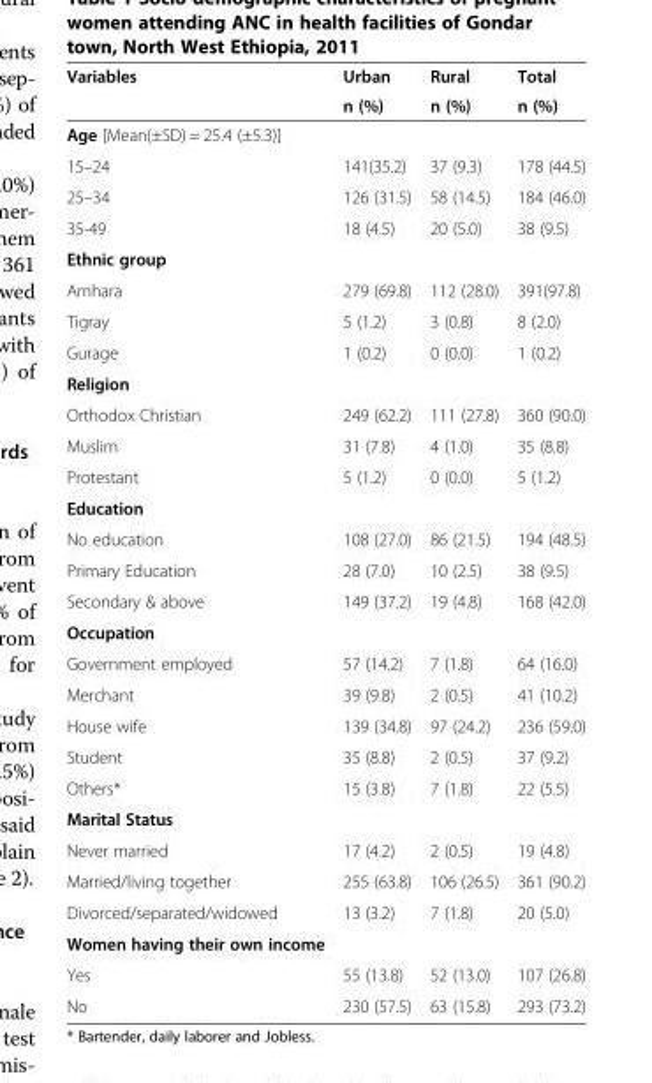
<table><thead><tr><td rowspan="2">Variables</td><td rowspan="2">Urban n (%)</td><td rowspan="2">Rural n (%)</td><td rowspan="2">Total n (%)</td></tr><tr></tr></thead><tbody><tr><td colspan="4">Age [Mean(±SD) = 25.4 (±5.3)]</td></tr><tr><td>15–24</td><td>141(35.2)</td><td>37 (9.3)</td><td>178 (44.5)</td></tr><tr><td>25–34</td><td>126 (31.5)</td><td>58 (14.5)</td><td>184 (46.0)</td></tr><tr><td>35-49</td><td>18 (4.5)</td><td>20 (5.0)</td><td>38 (9.5)</td></tr><tr><td colspan="4">Ethnic group</td></tr><tr><td>Amhara</td><td>279 (69.8)</td><td>112 (28.0)</td><td>391(97.8)</td></tr><tr><td>Tigray</td><td>5 (1.2)</td><td>3 (0.8)</td><td>8 (2.0)</td></tr><tr><td>Gurage</td><td>1 (0.2)</td><td>0 (0.0)</td><td>1 (0.2)</td></tr><tr><td colspan="4">Religion</td></tr><tr><td>Orthodox Christian</td><td>249 (62.2)</td><td>111 (27.8)</td><td>360 (90.0)</td></tr><tr><td>Muslim</td><td>31 (7.8)</td><td>4 (1.0)</td><td>35 (8.8)</td></tr><tr><td>Protestant</td><td>5 (1.2)</td><td>0 (0.0)</td><td>5 (1.2)</td></tr><tr><td colspan="4">Education</td></tr><tr><td>No education</td><td>108 (27.0)</td><td>86 (21.5)</td><td>194 (48.5)</td></tr><tr><td>Primary Education</td><td>28 (7.0)</td><td>10 (2.5)</td><td>38 (9.5)</td></tr><tr><td>Secondary &amp; above</td><td>149 (37.2)</td><td>19 (4.8)</td><td>168 (42.0)</td></tr><tr><td colspan="4">Occupation</td></tr><tr><td>Government employed</td><td>57 (14.2)</td><td>7 (1.8)</td><td>64 (16.0)</td></tr><tr><td>Merchant</td><td>39 (9.8)</td><td>2 (0.5)</td><td>41 (10.2)</td></tr><tr><td>House wife</td><td>139 (34.8)</td><td>97 (24.2)</td><td>236 (59.0)</td></tr><tr><td>Student</td><td>35 (8.8)</td><td>2 (0.5)</td><td>37 (9.2)</td></tr><tr><td>Others*</td><td>15 (3.8)</td><td>7 (1.8)</td><td>22 (5.5)</td></tr><tr><td colspan="4">Marital Status</td></tr><tr><td>Never married</td><td>17 (4.2)</td><td>2 (0.5)</td><td>19 (4.8)</td></tr><tr><td>Married/living together</td><td>255 (63.8)</td><td>106 (26.5)</td><td>361 (90.2)</td></tr><tr><td>Divorced/separated/widowed</td><td>13 (3.2)</td><td>7 (1.8)</td><td>20 (5.0)</td></tr><tr><td colspan="4">Women having their own income</td></tr><tr><td>Yes</td><td>55 (13.8)</td><td>52 (13.0)</td><td>107 (26.8)</td></tr><tr><td>No</td><td>230 (57.5)</td><td>63 (15.8)</td><td>293 (73.2)</td></tr></tbody></table>